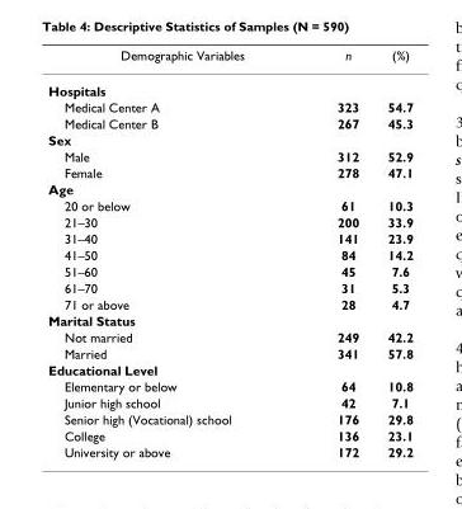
<table><thead><tr><td>Demographic Variables</td><td>n</td><td>(%)</td></tr></thead><tbody><tr><td colspan="3">Hospitals</td></tr><tr><td>Medical Center A</td><td>323</td><td>54.7</td></tr><tr><td>Medical Center B</td><td>267</td><td>45.3</td></tr><tr><td colspan="3">Sex</td></tr><tr><td>Male</td><td>312</td><td>52.9</td></tr><tr><td>Female</td><td>278</td><td>47.1</td></tr><tr><td colspan="3">Age</td></tr><tr><td>20 or below</td><td>61</td><td>10.3</td></tr><tr><td>21–30</td><td>200</td><td>33.9</td></tr><tr><td>31–40</td><td>141</td><td>23.9</td></tr><tr><td>41–50</td><td>84</td><td>14.2</td></tr><tr><td>51–60</td><td>45</td><td>7.6</td></tr><tr><td>61–70</td><td>31</td><td>5.3</td></tr><tr><td>71 or above</td><td>28</td><td>4.7</td></tr><tr><td colspan="3">Marital Status</td></tr><tr><td>Not married</td><td>249</td><td>42.2</td></tr><tr><td>Married</td><td>341</td><td>57.8</td></tr><tr><td colspan="3">Educational Level</td></tr><tr><td>Elementary or below</td><td>64</td><td>10.8</td></tr><tr><td>Junior high school</td><td>42</td><td>7.1</td></tr><tr><td>Senior high (Vocational) school</td><td>176</td><td>29.8</td></tr><tr><td>College</td><td>136</td><td>23.1</td></tr><tr><td>University or above</td><td>172</td><td>29.2</td></tr></tbody></table>